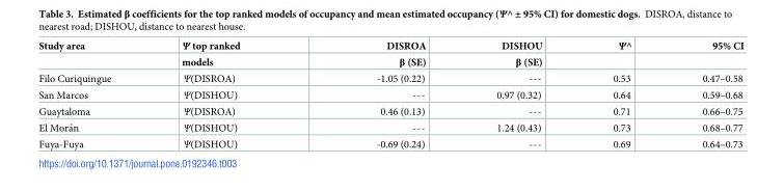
<table><thead><tr><td rowspan="2">Study area</td><td rowspan="2">Ψ top ranked models</td><td rowspan="2">DISROA β (SE)</td><td rowspan="2">DISHOU β (SE)</td><td rowspan="2">Ψ^</td><td rowspan="2">95% CI</td></tr><tr></tr></thead><tbody><tr><td>Filo Curiquingue</td><td>Ψ(DISROA)</td><td>-1.05 (0.22)</td><td>---</td><td>0.53</td><td>0.47–0.58</td></tr><tr><td>San Marcos</td><td>Ψ(DISHOU)</td><td>---</td><td>0.97 (0.32)</td><td>0.64</td><td>0.59–0.68</td></tr><tr><td>Guaytaloma</td><td>Ψ(DISROA)</td><td>0.46 (0.13)</td><td>---</td><td>0.71</td><td>0.66–0.75</td></tr><tr><td>El Mora´n</td><td>Ψ(DISHOU)</td><td>---</td><td>1.24 (0.43)</td><td>0.73</td><td>0.68–0.77</td></tr><tr><td>Fuya-Fuya</td><td>Ψ(DISHOU)</td><td>-0.69 (0.24)</td><td>---</td><td>0.69</td><td>0.64–0.73</td></tr></tbody></table>